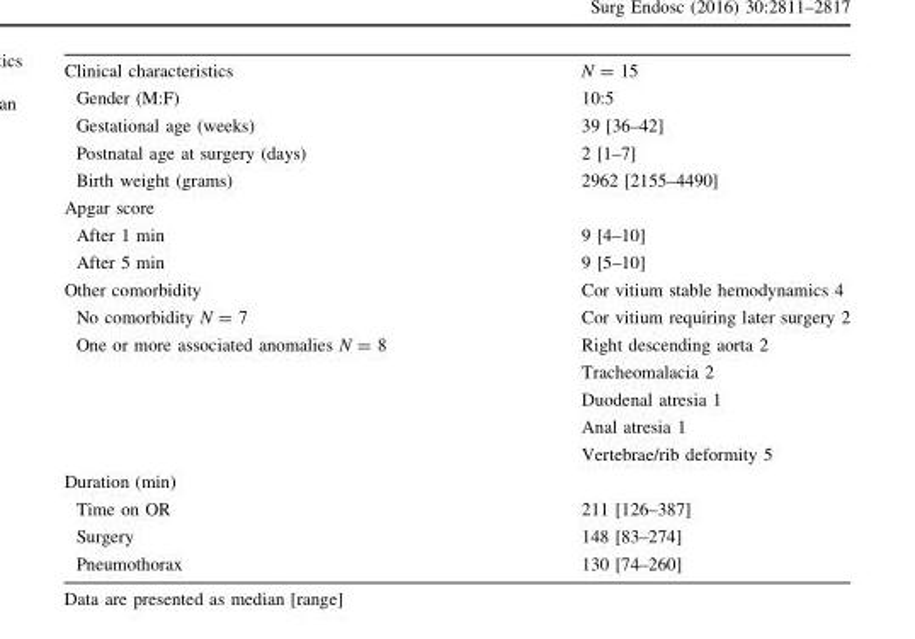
<table><tbody><tr><td>Clinical characteristics</td><td>N = 15</td></tr><tr><td>Gender (M:F)</td><td>10:5</td></tr><tr><td>Gestational age (weeks)</td><td>39 [36–42]</td></tr><tr><td>Postnatal age at surgery (days)</td><td>2 [1–7]</td></tr><tr><td>Birth weight (grams)</td><td>2962 [2155–4490]</td></tr><tr><td colspan="2">Apgar score</td></tr><tr><td>After 1 min</td><td>9 [4–10]</td></tr><tr><td>After 5 min</td><td>9 [5–10]</td></tr><tr><td>Other comorbidity</td><td>Cor vitium stable hemodynamics 4</td></tr><tr><td>No comorbidity N = 7</td><td>Cor vitium requiring later surgery 2</td></tr><tr><td rowspan="5">One or more associated anomalies N = 8</td><td>Right descending aorta 2</td></tr><tr><td>Tracheomalacia 2</td></tr><tr><td>Duodenal atresia 1</td></tr><tr><td>Anal atresia 1</td></tr><tr><td>Vertebrae/rib deformity 5</td></tr><tr><td colspan="2">Duration (min)</td></tr><tr><td>Time on OR</td><td>211 [126–387]</td></tr><tr><td>Surgery</td><td>148 [83–274]</td></tr><tr><td>Pneumothorax</td><td>130 [74–260]</td></tr></tbody></table>